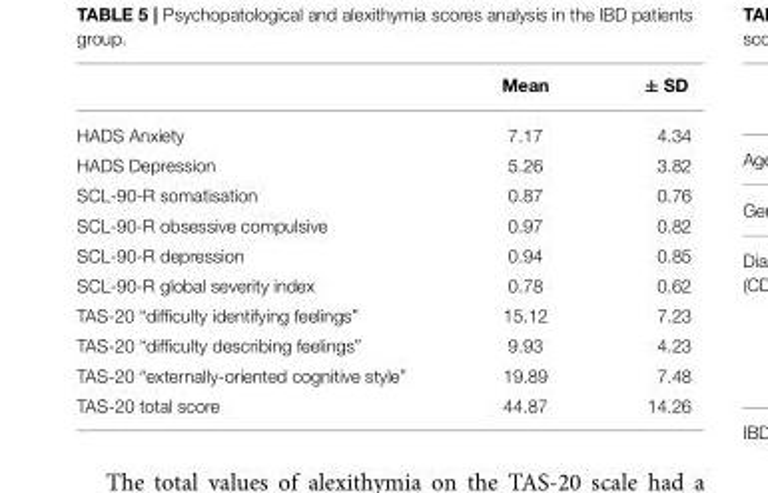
<table><thead><tr><td></td><td>Mean</td><td>± SD</td></tr></thead><tbody><tr><td>HADS Anxiety</td><td>7.17</td><td>4.34</td></tr><tr><td>HADS Depression</td><td>5.26</td><td>3.82</td></tr><tr><td>SCL-90-R somatisation</td><td>0.87</td><td>0.76</td></tr><tr><td>SCL-90-R obsessive compulsive</td><td>0.97</td><td>0.82</td></tr><tr><td>SCL-90-R depression</td><td>0.94</td><td>0.85</td></tr><tr><td>SCL-90-R global severity index</td><td>0.78</td><td>0.62</td></tr><tr><td>TAS-20 “difficulty identifying feelings”</td><td>15.12</td><td>7.23</td></tr><tr><td>TAS-20 “difficulty describing feelings”</td><td>9.93</td><td>4.23</td></tr><tr><td>TAS-20 “externally-oriented cognitive style”</td><td>19.89</td><td>7.48</td></tr><tr><td>TAS-20 total score</td><td>44.87</td><td>14.26</td></tr></tbody></table>